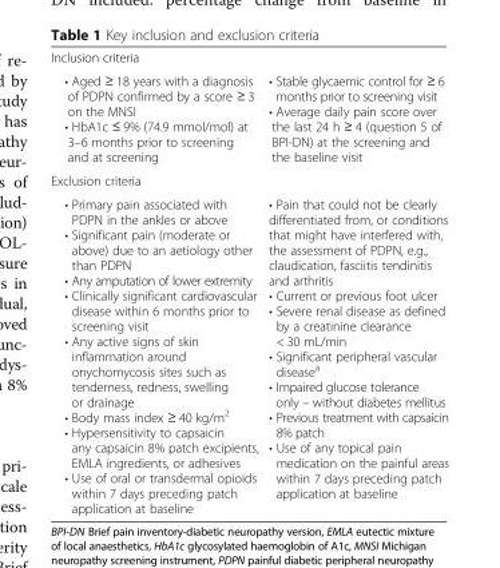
<table><tbody><tr><td colspan="2">Inclusion criteria</td></tr><tr><td>• Aged ≥ 18 years with a diagnosis of PDPN confirmed by a score ≥ 3 on the MNSI • HbA1c ≤ 9% (74.9 mmol/mol) at 3–6 months prior to screening and at screening</td><td>• Stable glycaemic control for ≥ 6 months prior to screening visit • Average daily pain score over the last 24 h ≥ 4 (question 5 of BPI-DN) at the screening and the baseline visit</td></tr><tr><td colspan="2">Exclusion criteria</td></tr><tr><td>• Primary pain associated with PDPN in the ankles or above • Significant pain (moderate or above) due to an aetiology other than PDPN • Any amputation of lower extremity • Clinically significant cardiovascular disease within 6 months prior to screening visit • Any active signs of skin inflammation around onychomycosis sites such as tenderness, redness, swelling or drainage • Body mass index ≥ 40 kg/m<sup>2</sup> • Hypersensitivity to capsaicin any capsaicin 8% patch excipients, EMLA ingredients, or adhesives • Use of oral or transdermal opioids within 7 days preceding patch application at baseline</td><td>• Pain that could not be clearly differentiated from, or conditions that might have interfered with, the assessment of PDPN, e.g., claudication, fasciitis tendinitis and arthritis • Current or previous foot ulcer • Severe renal disease as defined by a creatinine clearance &lt; 30 mL/min • Significant peripheral vascular disease<sup>a</sup> • Impaired glucose tolerance only – without diabetes mellitus • Previous treatment with capsaicin 8% patch • Use of any topical pain medication on the painful areas within 7 days preceding patch application at baseline</td></tr></tbody></table>